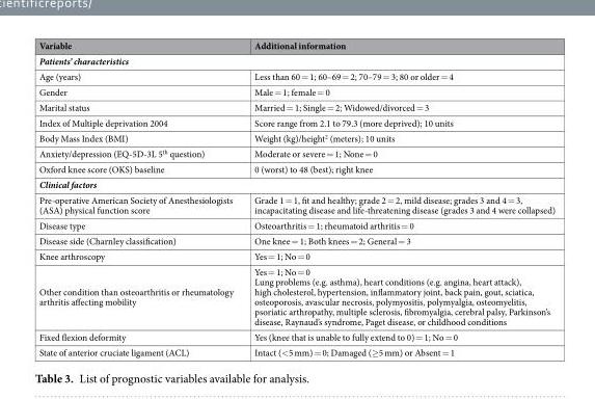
<table><thead><tr><td>Variable</td><td>Additional information</td></tr></thead><tbody><tr><td colspan="2">Patients’ characteristics</td></tr><tr><td>Age (years)</td><td>Less than 60 = 1; 60–69 = 2; 70–79 = 3; 80 or older = 4</td></tr><tr><td>Gender</td><td>Male = 1; female = 0</td></tr><tr><td>Marital status</td><td>Married = 1; Single = 2; Widowed/divorced = 3</td></tr><tr><td>Index of Multiple deprivation 2004</td><td>Score range from 2.1 to 79.3 (more deprived); 10 units</td></tr><tr><td>Body Mass Index (BMI)</td><td>Weight (kg)/height<sup>2</sup> (meters); 10 units</td></tr><tr><td>Anxiety/depression (EQ-5D-3L 5<sup>th</sup> question)</td><td>Moderate or severe = 1; None = 0</td></tr><tr><td>Oxford knee score (OKS) baseline</td><td>0 (worst) to 48 (best); right knee</td></tr><tr><td colspan="2">Clinical factors</td></tr><tr><td>Pre-operative American Society of Anesthesiologists (ASA) physical function score</td><td>Grade 1 = 1, fit and healthy; grade 2 = 2, mild disease; grades 3 and 4 = 3, incapacitating disease and life-threatening disease (grades 3 and 4 were collapsed)</td></tr><tr><td>Disease type</td><td>Osteoarthritis = 1; rheumatoid arthritis = 0</td></tr><tr><td>Disease side (Charnley classification)</td><td>One knee = 1; Both knees = 2; General = 3</td></tr><tr><td>Knee arthroscopy</td><td>Yes = 1; No = 0</td></tr><tr><td>Other condition than osteoarthritis or rheumatology arthritis affecting mobility</td><td>Yes = 1; No = 0 Lung problems (e.g. asthma), heart conditions (e.g. angina, heart attack), high cholesterol, hypertension, inflammatory joint, back pain, gout, sciatica, osteoporosis, avascular necrosis, polymyositis, polymyalgia, osteomyelitis, psoriatic arthropathy, multiple sclerosis, fibromyalgia, cerebral palsy, Parkinson’s disease, Raynaud’s syndrome, Paget disease, or childhood conditions</td></tr><tr><td>Fixed flexion deformity</td><td>Yes (knee that is unable to fully extend to 0) = 1; No = 0</td></tr><tr><td>State of anterior cruciate ligament (ACL)</td><td>Intact (&lt;5 mm) = 0; Damaged (≥5 mm) or Absent = 1</td></tr></tbody></table>